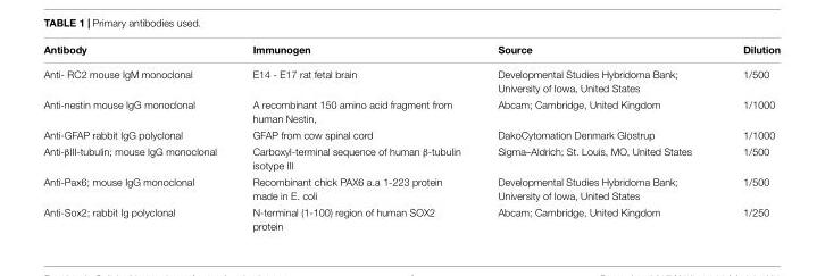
<table><thead><tr><td>Antibody</td><td>Immunogen</td><td>Source</td><td>Dilution</td></tr></thead><tbody><tr><td>Anti- RC2 mouse IgM monoclonal</td><td>E14 - E17 rat fetal brain</td><td>Developmental Studies Hybridoma Bank; University of Iowa, United States</td><td>1/500</td></tr><tr><td>Anti-nestin mouse IgG monoclonal</td><td>A recombinant 150 amino acid fragment from human Nestin,</td><td>Abcam; Cambridge, United Kingdom</td><td>1/1000</td></tr><tr><td>Anti-GFAP rabbit IgG polyclonal</td><td>GFAP from cow spinal cord</td><td>DakoCytomation Denmark Glostrup</td><td>1/1000</td></tr><tr><td>Anti-βIII-tubulin; mouse IgG monoclonal</td><td>Carboxyl-terminal sequence of human β-tubulin isotype III</td><td>Sigma–Aldrich; St. Louis, MO, United States</td><td>1/500</td></tr><tr><td>Anti-Pax6; mouse IgG monoclonal</td><td>Recombinant chick PAX6 a.a 1-223 protein made in E. coli</td><td>Developmental Studies Hybridoma Bank; University of Iowa, United States</td><td>1/500</td></tr><tr><td>Anti-Sox2; rabbit Ig polyclonal</td><td>N-terminal (1-100) region of human SOX2 protein</td><td>Abcam; Cambridge, United Kingdom</td><td>1/250</td></tr></tbody></table>